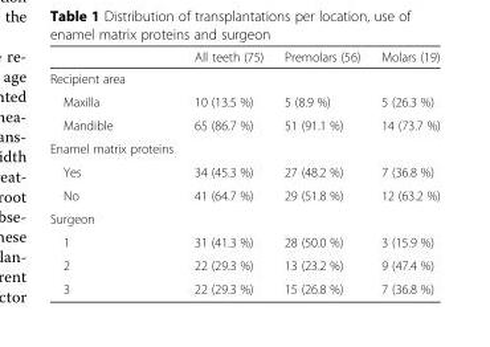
<table><thead><tr><td></td><td>All teeth (75)</td><td>Premolars (56)</td><td>Molars (19)</td></tr></thead><tbody><tr><td colspan="4">Recipient area</td></tr><tr><td>Maxilla</td><td>10 (13.5 %)</td><td>5 (8.9 %)</td><td>5 (26.3 %)</td></tr><tr><td>Mandible</td><td>65 (86.7 %)</td><td>51 (91.1 %)</td><td>14 (73.7 %)</td></tr><tr><td colspan="4">Enamel matrix proteins</td></tr><tr><td>Yes</td><td>34 (45.3 %)</td><td>27 (48.2 %)</td><td>7 (36.8 %)</td></tr><tr><td>No</td><td>41 (64.7 %)</td><td>29 (51.8 %)</td><td>12 (63.2 %)</td></tr><tr><td colspan="4">Surgeon</td></tr><tr><td>1</td><td>31 (41.3 %)</td><td>28 (50.0 %)</td><td>3 (15.9 %)</td></tr><tr><td>2</td><td>22 (29.3 %)</td><td>13 (23.2 %)</td><td>9 (47.4 %)</td></tr><tr><td>3</td><td>22 (29.3 %)</td><td>15 (26.8 %)</td><td>7 (36.8 %)</td></tr></tbody></table>